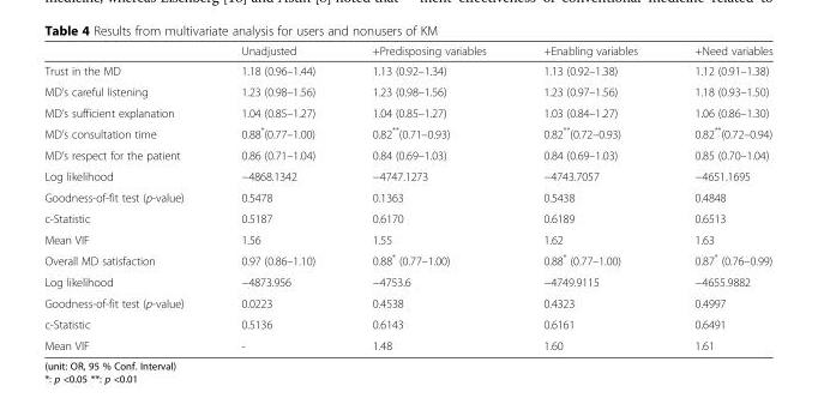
<table><thead><tr><td></td><td>Unadjusted</td><td>+Predisposing variables</td><td>+Enabling variables</td><td>+Need variables</td></tr></thead><tbody><tr><td>Trust in the MD</td><td>1.18 (0.96–1.44)</td><td>1.13 (0.92–1.34)</td><td>1.13 (0.92–1.38)</td><td>1.12 (0.91–1.38)</td></tr><tr><td>MD’s careful listening</td><td>1.23 (0.98–1.56)</td><td>1.23 (0.98–1.56)</td><td>1.23 (0.97–1.56)</td><td>1.18 (0.93–1.50)</td></tr><tr><td>MD’s sufficient explanation</td><td>1.04 (0.85–1.27)</td><td>1.04 (0.85–1.27)</td><td>1.03 (0.84–1.27)</td><td>1.06 (0.86–1.30)</td></tr><tr><td>MD’s consultation time</td><td>0.88*(0.77–1.00)</td><td>0.82**(0.71–0.93)</td><td>0.82**(0.72–0.93)</td><td>0.82**(0.72–0.94)</td></tr><tr><td>MD’s respect for the patient</td><td>0.86 (0.71–1.04)</td><td>0.84 (0.69–1.03)</td><td>0.84 (0.69–1.03)</td><td>0.85 (0.70–1.04)</td></tr><tr><td>Log likelihood</td><td>−4868.1342</td><td>−4747.1273</td><td>−4743.7057</td><td>−4651.1695</td></tr><tr><td>Goodness-of-fit test (p-value)</td><td>0.5478</td><td>0.1363</td><td>0.5438</td><td>0.4848</td></tr><tr><td>c-Statistic</td><td>0.5187</td><td>0.6170</td><td>0.6189</td><td>0.6513</td></tr><tr><td>Mean VIF</td><td>1.56</td><td>1.55</td><td>1.62</td><td>1.63</td></tr><tr><td>Overall MD satisfaction</td><td>0.97 (0.86–1.10)</td><td>0.88* (0.77–1.00)</td><td>0.88* (0.77–1.00)</td><td>0.87* (0.76–0.99)</td></tr><tr><td>Log likelihood</td><td>−4873.956</td><td>−4753.6</td><td>−4749.9115</td><td>−4655.9882</td></tr><tr><td>Goodness-of-fit test (p-value)</td><td>0.0223</td><td>0.4538</td><td>0.4323</td><td>0.4997</td></tr><tr><td>c-Statistic</td><td>0.5136</td><td>0.6143</td><td>0.6161</td><td>0.6491</td></tr><tr><td>Mean VIF</td><td>-</td><td>1.48</td><td>1.60</td><td>1.61</td></tr></tbody></table>